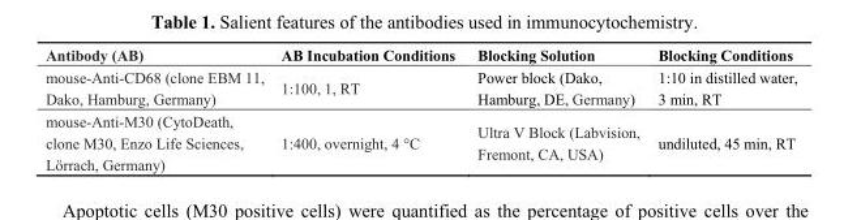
<table><thead><tr><td>Antibody (AB)</td><td>AB Incubation Conditions</td><td>Blocking Solution</td><td>Blocking Conditions</td></tr></thead><tbody><tr><td>mouse-Anti-CD68 (clone EBM 11, Dako, Hamburg, Germany)</td><td>1:100, 1, RT</td><td>Power block (Dako, Hamburg, DE, Germany)</td><td>1:10 in distilled water, 3 min, RT</td></tr><tr><td>mouse-Anti-M30 (CytoDeath, clone M30, Enzo Life Sciences, Lörrach, Germany)</td><td>1:400, overnight, 4 °C</td><td>Ultra V Block (Labvision, Fremont, CA, USA)</td><td>undiluted, 45 min, RT</td></tr></tbody></table>